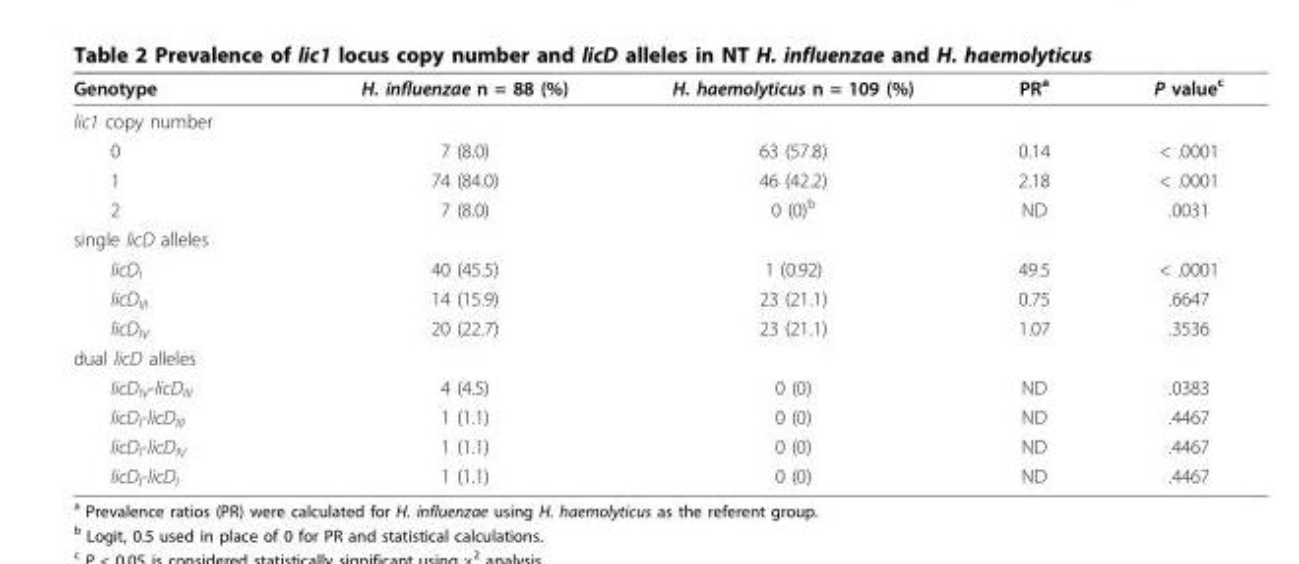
<table><thead><tr><td>Genotype</td><td>H. influenzae n = 88 (%)</td><td>H. haemolyticus n = 109 (%)</td><td>PR<sup>a</sup></td><td>P value<sup>c</sup></td></tr></thead><tbody><tr><td colspan="5">lic1 copy number</td></tr><tr><td>0</td><td>7 (8.0)</td><td>63 (57.8)</td><td>0.14</td><td>&lt; .0001</td></tr><tr><td>1</td><td>74 (84.0)</td><td>46 (42.2)</td><td>2.18</td><td>&lt; .0001</td></tr><tr><td>2</td><td>7 (8.0)</td><td>0 (0)<sup>b</sup></td><td>ND</td><td>.0031</td></tr><tr><td colspan="5">single licD alleles</td></tr><tr><td>licD<sub>I</sub></td><td>40 (45.5)</td><td>1 (0.92)</td><td>49.5</td><td>&lt; .0001</td></tr><tr><td>licD<sub>III</sub></td><td>14 (15.9)</td><td>23 (21.1)</td><td>0.75</td><td>.6647</td></tr><tr><td>licD<sub>IV</sub></td><td>20 (22.7)</td><td>23 (21.1)</td><td>1.07</td><td>.3536</td></tr><tr><td colspan="5">dual licD alleles</td></tr><tr><td>licD<sub>IV</sub>-licD<sub>III</sub></td><td>4 (4.5)</td><td>0 (0)</td><td>ND</td><td>.0383</td></tr><tr><td>licD<sub>I</sub>-licD<sub>III</sub></td><td>1 (1.1)</td><td>0 (0)</td><td>ND</td><td>.4467</td></tr><tr><td>licD<sub>I</sub>-licD<sub>IV</sub></td><td>1 (1.1)</td><td>0 (0)</td><td>ND</td><td>.4467</td></tr><tr><td>licD<sub>I</sub>-licD<sub>I</sub></td><td>1 (1.1)</td><td>0 (0)</td><td>ND</td><td>.4467</td></tr></tbody></table>